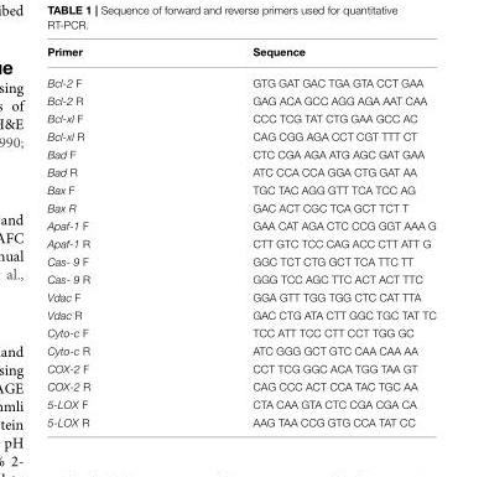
<table><thead><tr><td>Primer</td><td>Sequence</td></tr></thead><tbody><tr><td>Bcl-2 F</td><td>GTG GAT GAC TGA GTA CCT GAA</td></tr><tr><td>Bcl-2 R</td><td>GAG ACA GCC AGG AGA AAT CAA</td></tr><tr><td>Bcl-xl F</td><td>CCC TCG TAT CTG GAA GCC AC</td></tr><tr><td>Bcl-xl R</td><td>CAG CGG AGA CCT CGT TTT CT</td></tr><tr><td>Bad F</td><td>CTC CGA AGA ATG AGC GAT GAA</td></tr><tr><td>Bad R</td><td>ATC CCA CCA GGA CTG GAT AA</td></tr><tr><td>Bax F</td><td>TGC TAC AGG GTT TCA TCC AG</td></tr><tr><td>Bax R</td><td>GAC ACT CGC TCA GCT TCT T</td></tr><tr><td>Apaf-1 F</td><td>GAA CAT AGA CTC CCG GGT AAA G</td></tr><tr><td>Apaf-1 R</td><td>CTT GTC TCC CAG ACC CTT ATT G</td></tr><tr><td>Cas- 9 F</td><td>GGC TCT CTG GCT TCA TTC TT</td></tr><tr><td>Cas- 9 R</td><td>GGG TCC AGC TTC ACT ACT TTC</td></tr><tr><td>Vdac F</td><td>GGA GTT TGG TGG CTC CAT TTA</td></tr><tr><td>Vdac R</td><td>GAC CTG ATA CTT GGC TGC TAT TC</td></tr><tr><td>Cyto-c F</td><td>TCC ATT TCC CTT CCT TGG GC</td></tr><tr><td>Cyto-c R</td><td>ATC GGG GCT GTC CAA CAA AA</td></tr><tr><td>COX-2 F</td><td>CCT TCG GGC ACA TGG TAA GT</td></tr><tr><td>COX-2 R</td><td>CAG CCC ACT CCA TAC TGC AA</td></tr><tr><td>5-LOX F</td><td>CTA CAA GTA CTC CGA CGA CA</td></tr><tr><td>5-LOX R</td><td>AAG TAA CCG GTG CCA TAT CC</td></tr></tbody></table>